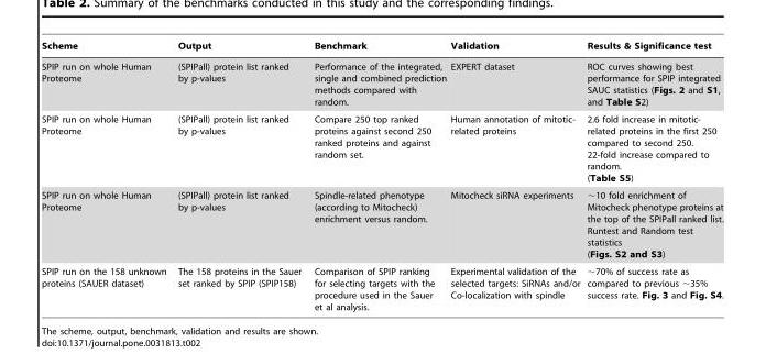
<table><thead><tr><td>Scheme</td><td>Output</td><td>Benchmark</td><td>Validation</td><td>Results &amp; Significance test</td></tr></thead><tbody><tr><td>SPIP run on whole Human Proteome</td><td>(SPIPall) protein list ranked by p-values</td><td>Performance of the integrated, single and combined prediction methods compared with random.</td><td>EXPERT dataset</td><td>ROC curves showing best performance for SPIP integrated SAUC statistics (Figs. 2 and S1, and Table S2)</td></tr><tr><td>SPIP run on whole Human Proteome</td><td>(SPIPall) protein list ranked by p-values</td><td>Compare 250 top ranked proteins against second 250 ranked proteins and against random set.</td><td>Human annotation of mitotic- related proteins</td><td>2.6 fold increase in mitotic- related proteins in the first 250 compared to second 250. 22-fold increase compared to random. (Table S5)</td></tr><tr><td>SPIP run on whole Human Proteome</td><td>(SPIPall) protein list ranked by p-values</td><td>Spindle-related phenotype (according to Mitocheck) enrichment versus random.</td><td>Mitocheck siRNA experiments</td><td>∼10 fold enrichment of Mitocheck phenotype proteins at the top of the SPIPall ranked list. Runtest and Random test statistics (Figs. S2 and S3)</td></tr><tr><td>SPIP run on the 158 unknown proteins (SAUER dataset)</td><td>The 158 proteins in the Sauer set ranked by SPIP (SPIP158)</td><td>Comparison of SPIP ranking for selecting targets with the procedure used in the Sauer et al analysis.</td><td>Experimental validation of the selected targets: SiRNAs and/or Co-localization with spindle</td><td>∼70% of success rate as compared to previous ∼35% success rate. Fig. 3 and Fig. S4.</td></tr></tbody></table>